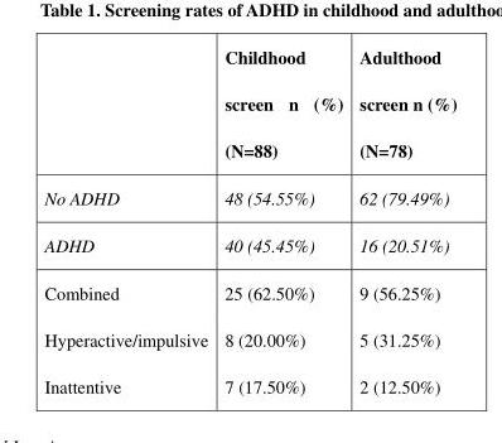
<table><thead><tr><td></td><td>Childhood screen n (%) (N=88)</td><td>Adulthood screen n (%) (N=78)</td></tr></thead><tbody><tr><td>No ADHD</td><td>48 (54.55%)</td><td>62 (79.49%)</td></tr><tr><td>ADHD</td><td>40 (45.45%)</td><td>16 (20.51%)</td></tr><tr><td>Combined</td><td>25 (62.50%)</td><td>9 (56.25%)</td></tr><tr><td>Hyperactive/impulsive</td><td>8 (20.00%)</td><td>5 (31.25%)</td></tr><tr><td>Inattentive</td><td>7 (17.50%)</td><td>2 (12.50%)</td></tr></tbody></table>